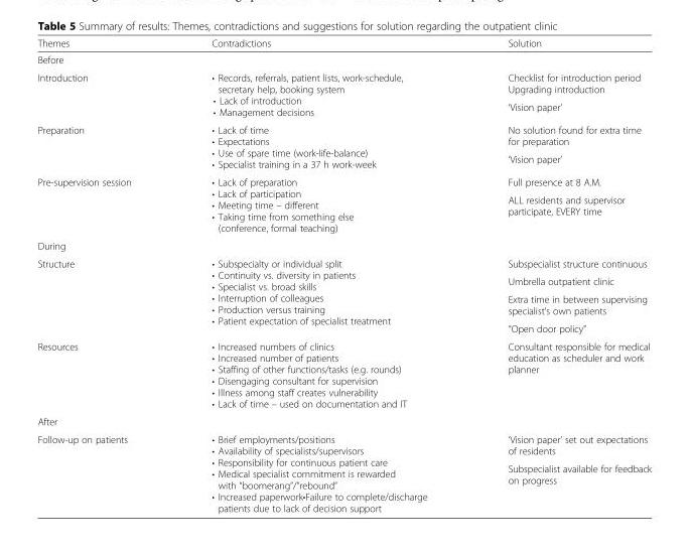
<table><thead><tr><td>Themes</td><td>Contradictions</td><td>Solution</td></tr></thead><tbody><tr><td colspan="3">Before</td></tr><tr><td rowspan="2">Introduction</td><td rowspan="2">• Records, referrals, patient lists, work-schedule, secretary help, booking system • Lack of introduction • Management decisions</td><td>Checklist for introduction period Upgrading introduction</td></tr><tr><td>‘Vision paper’</td></tr><tr><td rowspan="2">Preparation</td><td rowspan="2">• Lack of time • Expectations • Use of spare time (work-life-balance) • Specialist training in a 37 h work-week</td><td>No solution found for extra time for preparation</td></tr><tr><td>‘Vision paper’</td></tr><tr><td rowspan="2">Pre-supervision session</td><td rowspan="2">• Lack of preparation • Lack of participation • Meeting time – different • Taking time from something else (conference, formal teaching)</td><td>Full presence at 8 A.M.</td></tr><tr><td>ALL residents and supervisor participate, EVERY time</td></tr><tr><td colspan="3">During</td></tr><tr><td rowspan="4">Structure</td><td rowspan="4">• Subspecialty or individual split • Continuity vs. diversity in patients • Specialist vs. broad skills • Interruption of colleagues • Production versus training • Patient expectation of specialist treatment</td><td>Subspecialist structure continuous</td></tr><tr><td>Umbrella outpatient clinic</td></tr><tr><td>Extra time in between supervising specialist’s own patients</td></tr><tr><td>“Open door policy”</td></tr><tr><td>Resources</td><td>• Increased numbers of clinics • Increased number of patients • Staffing of other functions/tasks (e.g. rounds) • Disengaging consultant for supervision • Illness among staff creates vulnerability • Lack of time – used on documentation and IT</td><td>Consultant responsible for medical education as scheduler and work planner</td></tr><tr><td colspan="3">After</td></tr><tr><td rowspan="2">Follow-up on patients</td><td rowspan="2">• Brief employments/positions • Availability of specialists/supervisors • Responsibility for continuous patient care • Medical specialist commitment is rewarded with “boomerang”/”rebound” • Increased paperwork•Failure to complete/discharge patients due to lack of decision support</td><td>‘Vision paper’ set out expectations of residents</td></tr><tr><td>Subspecialist available for feedback on progress</td></tr></tbody></table>